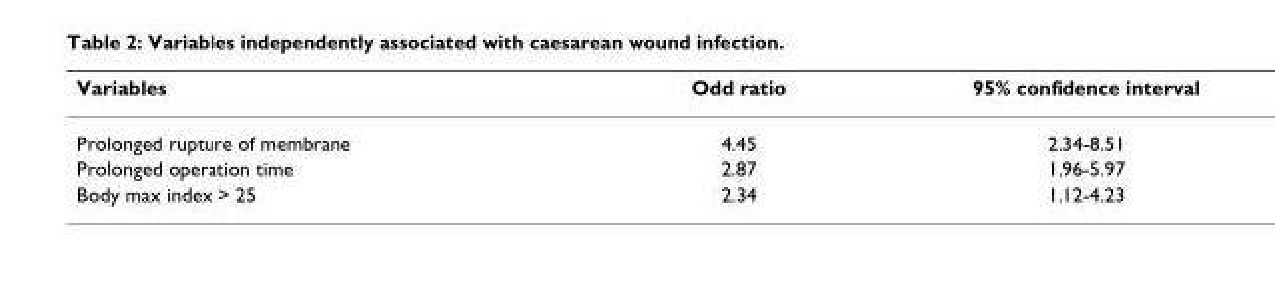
<table><thead><tr><td>Variables</td><td>Odd ratio</td><td>95% confidence interval</td></tr></thead><tbody><tr><td>Prolonged rupture of membrane</td><td>4.45</td><td>2.34-8.51</td></tr><tr><td>Prolonged operation time</td><td>2.87</td><td>1.96-5.97</td></tr><tr><td>Body max index &gt; 25</td><td>2.34</td><td>1.12-4.23</td></tr></tbody></table>